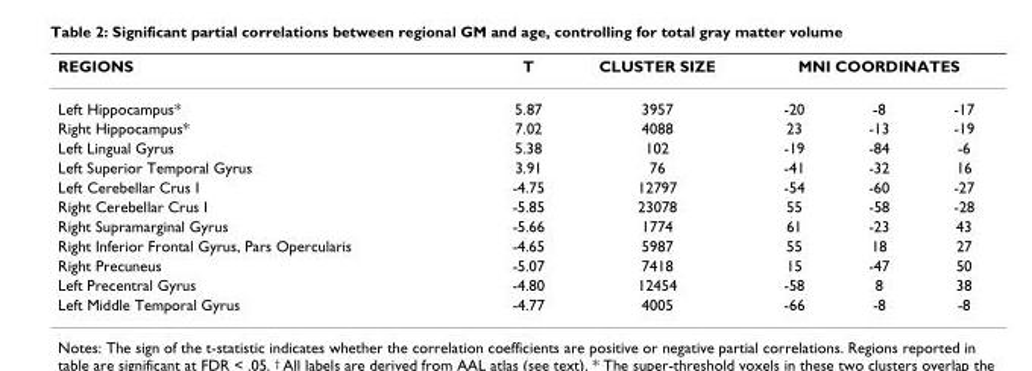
<table><thead><tr><td rowspan="2">REGIONS Left Hippocampus*</td><td rowspan="2">T 5.87</td><td rowspan="2">CLUSTER SIZE 3957</td><td colspan="3">MNI COORDINATES</td></tr><tr><td>-20</td><td>-8</td><td>-17</td></tr></thead><tbody><tr><td>Right Hippocampus*</td><td>7.02</td><td>4088</td><td>23</td><td>-13</td><td>-19</td></tr><tr><td>Left Lingual Gyrus</td><td>5.38</td><td>102</td><td>-19</td><td>-84</td><td>-6</td></tr><tr><td>Left Superior Temporal Gyrus</td><td>3.91</td><td>76</td><td>-41</td><td>-32</td><td>16</td></tr><tr><td>Left Cerebellar Crus I</td><td>-4.75</td><td>12797</td><td>-54</td><td>-60</td><td>-27</td></tr><tr><td>Right Cerebellar Crus I</td><td>-5.85</td><td>23078</td><td>55</td><td>-58</td><td>-28</td></tr><tr><td>Right Supramarginal Gyrus</td><td>-5.66</td><td>1774</td><td>61</td><td>-23</td><td>43</td></tr><tr><td>Right Inferior Frontal Gyrus, Pars Opercularis</td><td>-4.65</td><td>5987</td><td>55</td><td>18</td><td>27</td></tr><tr><td>Right Precuneus</td><td>-5.07</td><td>7418</td><td>15</td><td>-47</td><td>50</td></tr><tr><td>Left Precentral Gyrus</td><td>-4.80</td><td>12454</td><td>-58</td><td>8</td><td>38</td></tr><tr><td>Left Middle Temporal Gyrus</td><td>-4.77</td><td>4005</td><td>-66</td><td>-8</td><td>-8</td></tr></tbody></table>